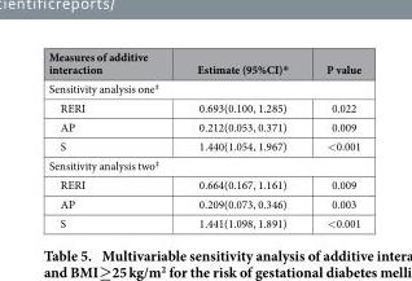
<table><thead><tr><td>Measures of additive interaction</td><td>Estimate (95%CI)*</td><td>P value</td></tr></thead><tbody><tr><td colspan="3">Sensitivity analysis one‡</td></tr><tr><td>RERI</td><td>0.693(0.100, 1.285)</td><td>0.022</td></tr><tr><td>AP</td><td>0.212(0.053, 0.371)</td><td>0.009</td></tr><tr><td>S</td><td>1.440(1.054, 1.967)</td><td>&lt; 0.001</td></tr><tr><td colspan="3">Sensitivity analysis two‡</td></tr><tr><td>RERI</td><td>0.664(0.167, 1.161)</td><td>0.009</td></tr><tr><td>AP</td><td>0.209(0.073, 0.346)</td><td>0.003</td></tr><tr><td>S</td><td>1.441(1.098, 1.891)</td><td>&lt; 0.001</td></tr></tbody></table>